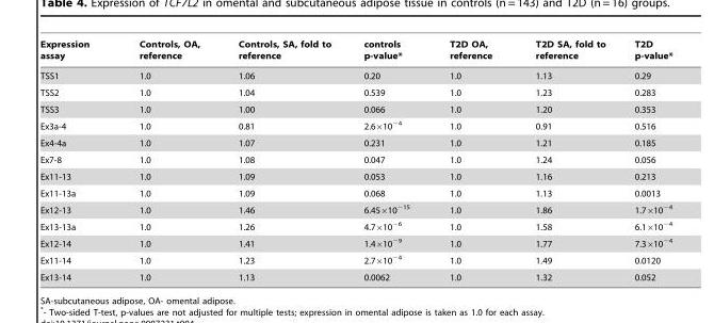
<table><thead><tr><td>Expression assay</td><td>Controls, OA, reference</td><td>Controls, SA, fold to reference</td><td>controls p-value*</td><td>T2D OA, reference</td><td>T2D SA, fold to reference</td><td>T2D p-value*</td></tr></thead><tbody><tr><td>TSS1</td><td>1.0</td><td>1.06</td><td>0.20</td><td>1.0</td><td>1.13</td><td>0.29</td></tr><tr><td>TSS2</td><td>1.0</td><td>1.04</td><td>0.539</td><td>1.0</td><td>1.23</td><td>0.283</td></tr><tr><td>TSS3</td><td>1.0</td><td>1.00</td><td>0.066</td><td>1.0</td><td>1.20</td><td>0.353</td></tr><tr><td>Ex3a-4</td><td>1.0</td><td>0.81</td><td>2.6×10<sup>−4</sup></td><td>1.0</td><td>0.91</td><td>0.516</td></tr><tr><td>Ex4-4a</td><td>1.0</td><td>1.07</td><td>0.231</td><td>1.0</td><td>1.21</td><td>0.185</td></tr><tr><td>Ex7-8</td><td>1.0</td><td>1.08</td><td>0.047</td><td>1.0</td><td>1.24</td><td>0.056</td></tr><tr><td>Ex11-13</td><td>1.0</td><td>1.09</td><td>0.053</td><td>1.0</td><td>1.16</td><td>0.213</td></tr><tr><td>Ex11-13a</td><td>1.0</td><td>1.09</td><td>0.068</td><td>1.0</td><td>1.13</td><td>0.0013</td></tr><tr><td>Ex12-13</td><td>1.0</td><td>1.46</td><td>6.45×10<sup>−15</sup></td><td>1.0</td><td>1.86</td><td>1.7×10<sup>−4</sup></td></tr><tr><td>Ex13-13a</td><td>1.0</td><td>1.26</td><td>4.7×10<sup>−6</sup></td><td>1.0</td><td>1.58</td><td>6.1×10<sup>−4</sup></td></tr><tr><td>Ex12-14</td><td>1.0</td><td>1.41</td><td>1.4×10<sup>−9</sup></td><td>1.0</td><td>1.77</td><td>7.3×10<sup>−4</sup></td></tr><tr><td>Ex11-14</td><td>1.0</td><td>1.23</td><td>2.7×10<sup>−4</sup></td><td>1.0</td><td>1.49</td><td>0.0120</td></tr><tr><td>Ex13-14</td><td>1.0</td><td>1.13</td><td>0.0062</td><td>1.0</td><td>1.32</td><td>0.052</td></tr></tbody></table>